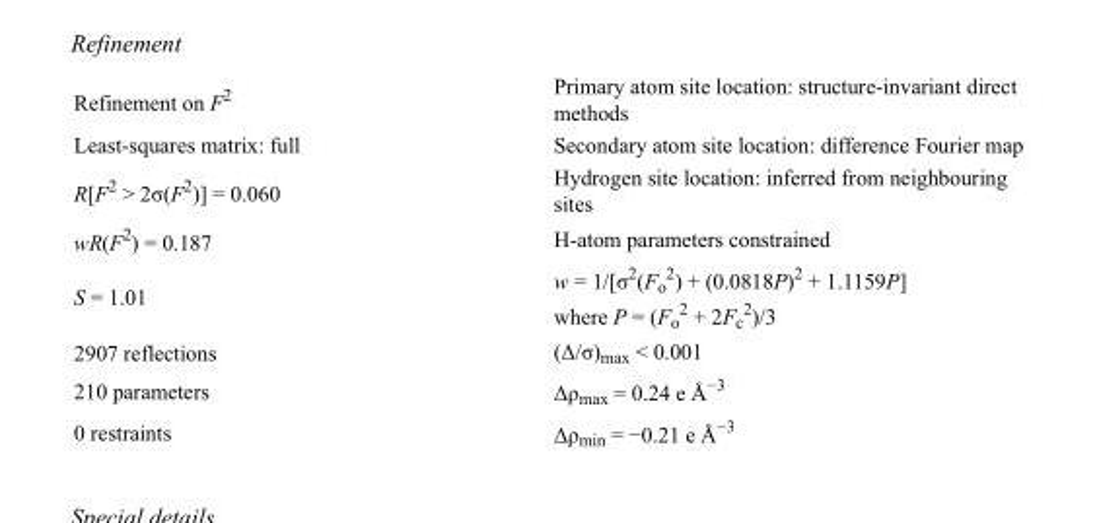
<table><tbody><tr><td>Refinement on F<sup>2</sup></td><td>Primary atom site location: structure-invariant direct methods</td></tr><tr><td>Least-squares matrix: full</td><td>Secondary atom site location: difference Fourier map</td></tr><tr><td>R[F<sup>2</sup> &gt; 2σ(F<sup>2</sup>)] = 0.060</td><td>Hydrogen site location: inferred from neighbouring sites</td></tr><tr><td>wR(F<sup>2</sup>) = 0.187</td><td>H-atom parameters constrained</td></tr><tr><td>S = 1.01</td><td>w = 1/[σ<sup>2</sup>(F<sub>o</sub> <sup>2</sup>) + (0.0818P)<sup>2</sup> + 1.1159P] where P = (F<sub>o</sub> <sup>2</sup> + 2F<sub>c</sub> <sup>2</sup>)/3</td></tr><tr><td>2907 reflections</td><td>(Δ/σ)<sub>max</sub> &lt; 0.001</td></tr><tr><td>210 parameters</td><td>Δρ<sub>max</sub> = 0.24 e Å<sup>−3</sup></td></tr><tr><td>0 restraints</td><td>Δρ<sub>min</sub> = −0.21 e Å<sup>−3</sup></td></tr></tbody></table>